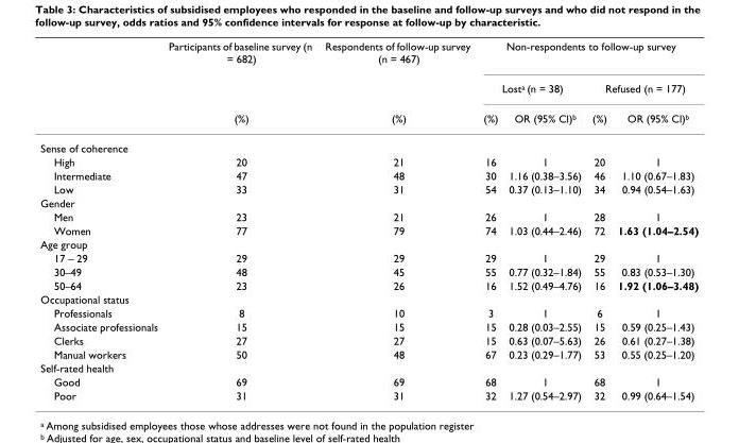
<table><thead><tr><td rowspan="3"></td><td rowspan="3">Participants of baseline survey (n = 682) (%)</td><td rowspan="3">Respondents of follow-up survey (n = 467) (%)</td><td colspan="4">Non-respondents to follow-up survey</td></tr><tr><td colspan="2">Lost<sup>a</sup> (n = 38)</td><td colspan="2">Refused (n = 177)</td></tr><tr><td>(%)</td><td>OR (95% Cl)<sup>b</sup></td><td>(%)</td><td>OR (95% Cl)<sup>b</sup></td></tr></thead><tbody><tr><td colspan="7">Sense of coherence</td></tr><tr><td>High</td><td>20</td><td>21</td><td>16</td><td>1</td><td>20</td><td>1</td></tr><tr><td>Intermediate</td><td>47</td><td>48</td><td>30</td><td>1.16 (0.38–3.56)</td><td>46</td><td>1.10 (0.67–1.83)</td></tr><tr><td>Low</td><td>33</td><td>31</td><td>54</td><td>0.37 (0.13–1.10)</td><td>34</td><td>0.94 (0.54–1.63)</td></tr><tr><td colspan="7">Gender</td></tr><tr><td>Men</td><td>23</td><td>21</td><td>26</td><td>1</td><td>28</td><td>1</td></tr><tr><td>Women</td><td>77</td><td>79</td><td>74</td><td>1.03 (0.44–2.46)</td><td>72</td><td>1.63 (1.04–2.54)</td></tr><tr><td colspan="7">Age group</td></tr><tr><td>17 – 29</td><td>29</td><td>29</td><td>29</td><td>1</td><td>29</td><td>1</td></tr><tr><td>30–49</td><td>48</td><td>45</td><td>55</td><td>0.77 (0.32–1.84)</td><td>55</td><td>0.83 (0.53–1.30)</td></tr><tr><td>50–64</td><td>23</td><td>26</td><td>16</td><td>1.52 (0.49–4.76)</td><td>16</td><td>1.92 (1.06–3.48)</td></tr><tr><td colspan="7">Occupational status</td></tr><tr><td>Professionals</td><td>8</td><td>10</td><td>3</td><td>1</td><td>6</td><td>1</td></tr><tr><td>Associate professionals</td><td>15</td><td>15</td><td>15</td><td>0.28 (0.03–2.55)</td><td>15</td><td>0.59 (0.25–1.43)</td></tr><tr><td>Clerks</td><td>27</td><td>27</td><td>15</td><td>0.63 (0.07–5.63)</td><td>26</td><td>0.61 (0.27–1.38)</td></tr><tr><td>Manual workers</td><td>50</td><td>48</td><td>67</td><td>0.23 (0.29–1.77)</td><td>53</td><td>0.55 (0.25–1.20)</td></tr><tr><td colspan="7">Self-rated health</td></tr><tr><td>Good</td><td>69</td><td>69</td><td>68</td><td>1</td><td>68</td><td>1</td></tr><tr><td>Poor</td><td>31</td><td>31</td><td>32</td><td>1.27 (0.54–2.97)</td><td>32</td><td>0.99 (0.64–1.54)</td></tr></tbody></table>